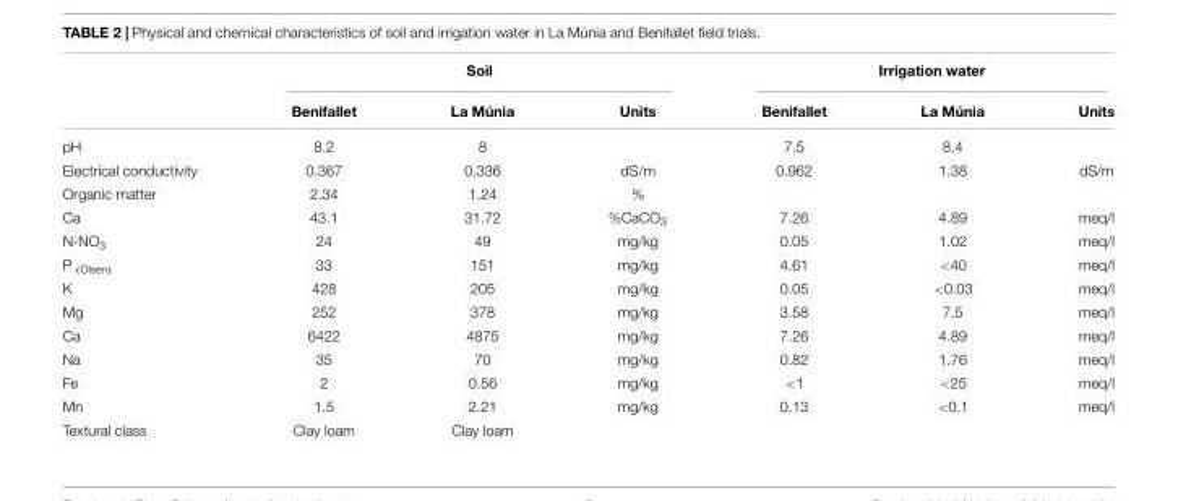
<table><thead><tr><td rowspan="2"></td><td colspan="3">Soil</td><td colspan="3">Irrigation water</td></tr><tr><td>Benifallet</td><td>La Múnia</td><td>Units</td><td>Benifallet</td><td>La Múnia</td><td>Units</td></tr></thead><tbody><tr><td>pH</td><td>8.2</td><td>8</td><td></td><td>7.5</td><td>8.4</td><td></td></tr><tr><td>Electrical conductivity</td><td>0.367</td><td>0.336</td><td>dS/m</td><td>0.962</td><td>1.38</td><td>dS/m</td></tr><tr><td>Organic matter</td><td>2.34</td><td>1.24</td><td>%</td><td></td><td></td><td></td></tr><tr><td>Ca</td><td>43.1</td><td>31.72</td><td>%CaCO<sub>3</sub></td><td>7.26</td><td>4.89</td><td>meq/l</td></tr><tr><td>N-NO<sub>3</sub></td><td>24</td><td>49</td><td>mg/kg</td><td>0.05</td><td>1.02</td><td>meq/l</td></tr><tr><td>P <sub>(Olsen)</sub></td><td>33</td><td>151</td><td>mg/kg</td><td>4.61</td><td>&lt;40</td><td>meq/l</td></tr><tr><td>K</td><td>428</td><td>205</td><td>mg/kg</td><td>0.05</td><td>&lt;0.03</td><td>meq/l</td></tr><tr><td>Mg</td><td>252</td><td>378</td><td>mg/kg</td><td>3.58</td><td>7.5</td><td>meq/l</td></tr><tr><td>Ca</td><td>6422</td><td>4875</td><td>mg/kg</td><td>7.26</td><td>4.89</td><td>meq/l</td></tr><tr><td>Na</td><td>35</td><td>70</td><td>mg/kg</td><td>0.82</td><td>1.76</td><td>meq/l</td></tr><tr><td>Fe</td><td>2</td><td>0.56</td><td>mg/kg</td><td>&lt;1</td><td>&lt;25</td><td>meq/l</td></tr><tr><td>Mn</td><td>1.5</td><td>2.21</td><td>mg/kg</td><td>0.13</td><td>&lt;0.1</td><td>meq/l</td></tr><tr><td>Textural class</td><td>Clay loam</td><td>Clay loam</td><td></td><td></td><td></td><td></td></tr></tbody></table>